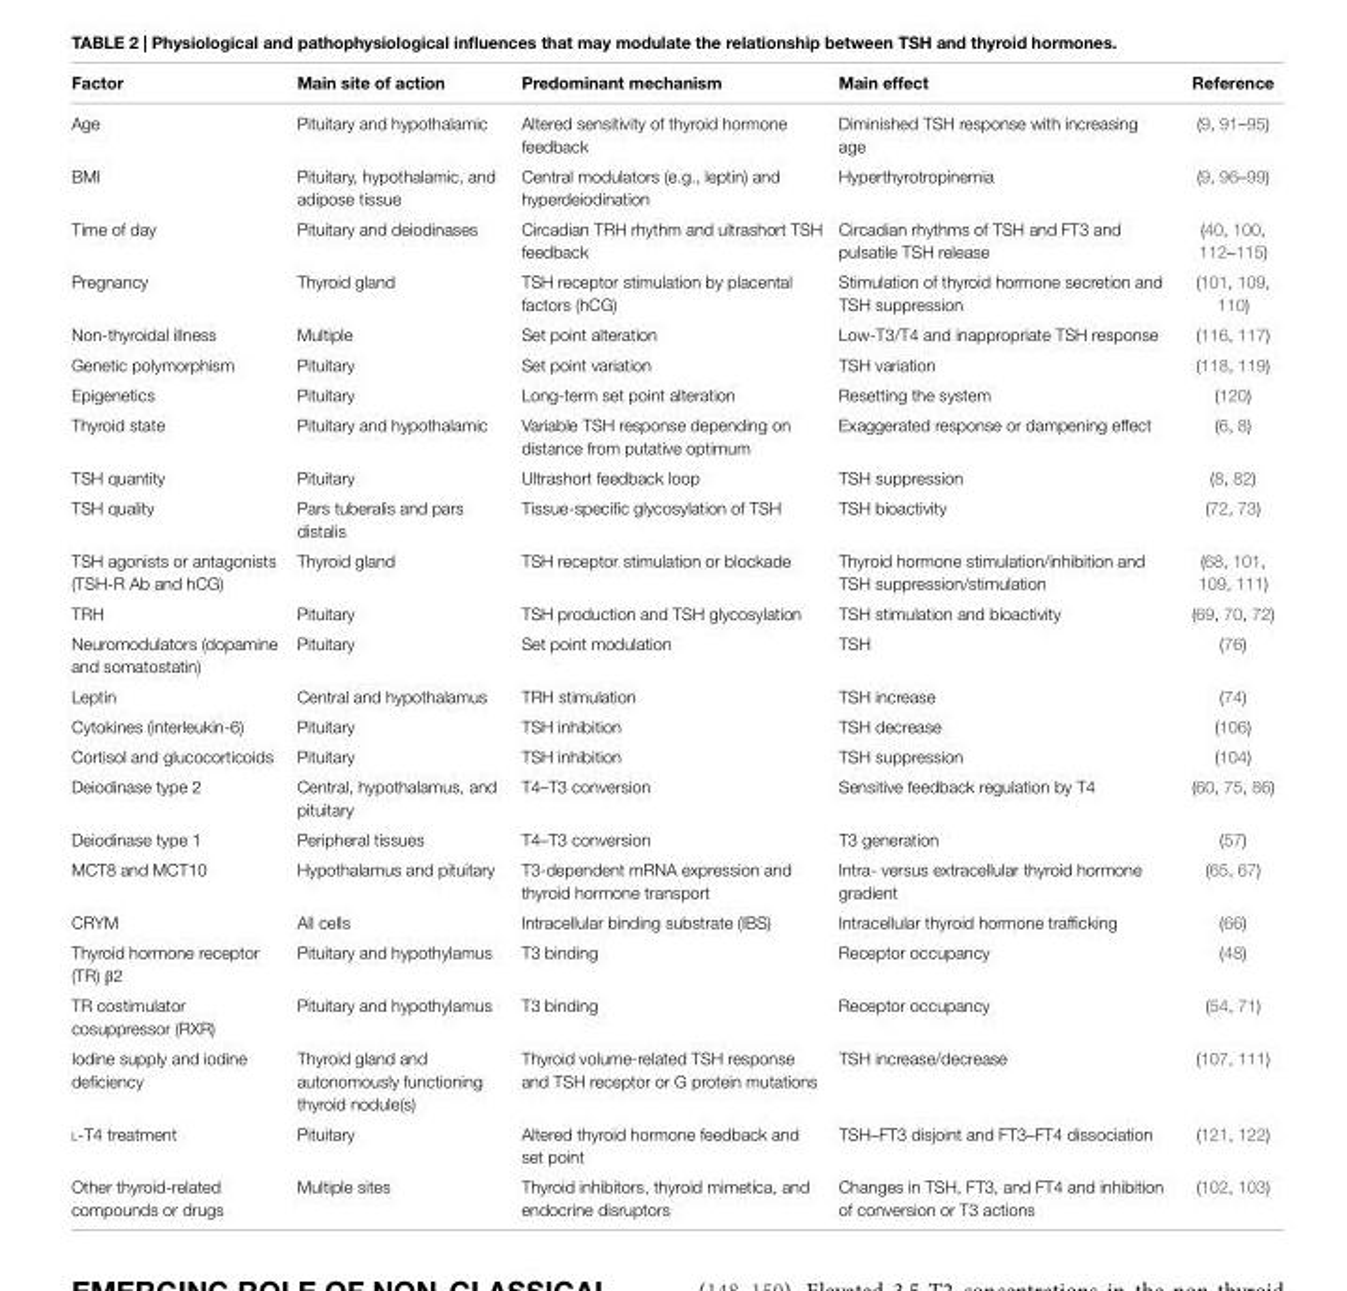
<table><thead><tr><td>Factor</td><td>Main site of action</td><td>Predominant mechanism</td><td>Main effect</td><td>Reference</td></tr></thead><tbody><tr><td>Age</td><td>Pituitary and hypothalamic</td><td>Altered sensitivity of thyroid hormone feedback</td><td>Diminished TSH response with increasing age</td><td>(9, 91–95)</td></tr><tr><td>BMI</td><td>Pituitary, hypothalamic, and adipose tissue</td><td>Central modulators (e.g., leptin) and hyperdeiodination</td><td>Hyperthyrotropinemia</td><td>(9, 96–99)</td></tr><tr><td>Time of day</td><td>Pituitary and deiodinases</td><td>Circadian TRH rhythm and ultrashort TSH feedback</td><td>Circadian rhythms of TSH and FT3 and pulsatile TSH release</td><td>(40, 100, 112–115)</td></tr><tr><td>Pregnancy</td><td>Thyroid gland</td><td>TSH receptor stimulation by placental factors (hCG)</td><td>Stimulation of thyroid hormone secretion and TSH suppression</td><td>(101, 109, 110)</td></tr><tr><td>Non-thyroidal illness</td><td>Multiple</td><td>Set point alteration</td><td>Low-T3/T4 and inappropriate TSH response</td><td>(116, 117)</td></tr><tr><td>Genetic polymorphism</td><td>Pituitary</td><td>Set point variation</td><td>TSH variation</td><td>(118, 119)</td></tr><tr><td>Epigenetics</td><td>Pituitary</td><td>Long-term set point alteration</td><td>Resetting the system</td><td>(120)</td></tr><tr><td>Thyroid state</td><td>Pituitary and hypothalamic</td><td>Variable TSH response depending on distance from putative optimum</td><td>Exaggerated response or dampening effect</td><td>(6, 8)</td></tr><tr><td>TSH quantity</td><td>Pituitary</td><td>Ultrashort feedback loop</td><td>TSH suppression</td><td>(8, 82)</td></tr><tr><td>TSH quality</td><td>Pars tuberalis and pars distalis</td><td>Tissue-specific glycosylation of TSH</td><td>TSH bioactivity</td><td>(72, 73)</td></tr><tr><td>TSH agonists or antagonists (TSH-R Ab and hCG)</td><td>Thyroid gland</td><td>TSH receptor stimulation or blockade</td><td>Thyroid hormone stimulation/inhibition and TSH suppression/stimulation</td><td>(68, 101, 109, 111)</td></tr><tr><td>TRH</td><td>Pituitary</td><td>TSH production and TSH glycosylation</td><td>TSH stimulation and bioactivity</td><td>(69, 70, 72)</td></tr><tr><td>Neuromodulators (dopamine and somatostatin)</td><td>Pituitary</td><td>Set point modulation</td><td>TSH</td><td>(76)</td></tr><tr><td>Leptin</td><td>Central and hypothalamus</td><td>TRH stimulation</td><td>TSH increase</td><td>(74)</td></tr><tr><td>Cytokines (interleukin-6)</td><td>Pituitary</td><td>TSH inhibition</td><td>TSH decrease</td><td>(106)</td></tr><tr><td>Cortisol and glucocorticoids</td><td>Pituitary</td><td>TSH inhibition</td><td>TSH suppression</td><td>(104)</td></tr><tr><td>Deiodinase type 2</td><td>Central, hypothalamus, and pituitary</td><td>T4–T3 conversion</td><td>Sensitive feedback regulation by T4</td><td>(60, 75, 86)</td></tr><tr><td>Deiodinase type 1</td><td>Peripheral tissues</td><td>T4–T3 conversion</td><td>T3 generation</td><td>(57)</td></tr><tr><td>MCT8 and MCT10</td><td>Hypothalamus and pituitary</td><td>T3-dependent mRNA expression and thyroid hormone transport</td><td>Intra- versus extracellular thyroid hormone gradient</td><td>(65, 67)</td></tr><tr><td>CRYM</td><td>All cells</td><td>Intracellular binding substrate (IBS)</td><td>Intracellular thyroid hormone trafficking</td><td>(66)</td></tr><tr><td>Thyroid hormone receptor (TR) β2</td><td>Pituitary and hypothylamus</td><td>T3 binding</td><td>Receptor occupancy</td><td>(48)</td></tr><tr><td>TR costimulator cosuppressor (RXR)</td><td>Pituitary and hypothylamus</td><td>T3 binding</td><td>Receptor occupancy</td><td>(54, 71)</td></tr><tr><td>Iodine supply and iodine deficiency</td><td>Thyroid gland and autonomously functioning thyroid nodule(s)</td><td>Thyroid volume-related TSH response and TSH receptor or G protein mutations</td><td>TSH increase/decrease</td><td>(107, 111)</td></tr><tr><td>l-T4 treatment</td><td>Pituitary</td><td>Altered thyroid hormone feedback and set point</td><td>TSH–FT3 disjoint and FT3–FT4 dissociation</td><td>(121, 122)</td></tr><tr><td>Other thyroid-related compounds or drugs</td><td>Multiple sites</td><td>Thyroid inhibitors, thyroid mimetica, and endocrine disruptors</td><td>Changes in TSH, FT3, and FT4 and inhibition of conversion or T3 actions</td><td>(102, 103)</td></tr></tbody></table>